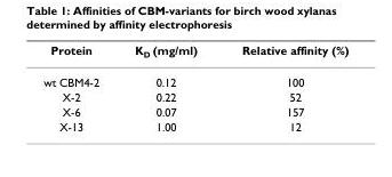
<table><thead><tr><td>Protein</td><td>K<sub>D</sub> (mg/ml)</td><td>Relative affinity (%)</td></tr></thead><tbody><tr><td>wt CBM4-2</td><td>0.12</td><td>100</td></tr><tr><td>X-2</td><td>0.22</td><td>52</td></tr><tr><td>X-6</td><td>0.07</td><td>157</td></tr><tr><td>X-13</td><td>1.00</td><td>12</td></tr></tbody></table>